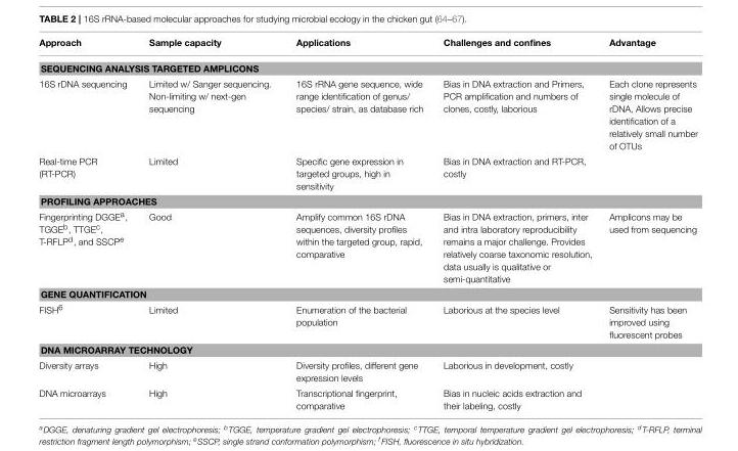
<table><thead><tr><td>Approach</td><td>Sample capacity</td><td>Applications</td><td>Challenges and confines</td><td>Advantage</td></tr></thead><tbody><tr><td colspan="5">SEQUENCING ANALYSIS TARGETED AMPLICONS</td></tr><tr><td>16S rDNA sequencing</td><td>Limited w/ Sanger sequencing. Non-limiting w/ next-gen sequencing</td><td>16S rRNA gene sequence, wide range identification of genus/ species/ strain, as database rich</td><td>Bias in DNA extraction and Primers, PCR amplification and numbers of clones, costly, laborious</td><td>Each clone represents single molecule of rDNA, Allows precise identification of a relatively small number of OTUs</td></tr><tr><td>Real-time PCR (RT-PCR)</td><td>Limited</td><td>Specific gene expression in targeted groups, high in sensitivity</td><td>Bias in DNA extraction and RT-PCR, costly</td><td></td></tr><tr><td colspan="5">PROFILING APPROACHES</td></tr><tr><td>Fingerprinting DGGE<sup>a</sup>, TGGE<sup>b</sup>, TTGE<sup>c</sup>, T-RFLP<sup>d</sup>, and SSCP<sup>e</sup></td><td>Good</td><td>Amplify common 16S rDNA sequences, diversity profiles within the targeted group, rapid, comparative</td><td>Bias in DNA extraction, primers, inter and intra laboratory reproducibility remains a major challenge. Provides relatively coarse taxonomic resolution, data usually is qualitative or semi-quantitative</td><td>Amplicons may be used from sequencing</td></tr><tr><td colspan="5">GENE QUANTIFICATION</td></tr><tr><td>FISH<sup>6</sup></td><td>Limited</td><td>Enumeration of the bacterial population</td><td>Laborious at the species level</td><td>Sensitivity has been improved using fluorescent probes</td></tr><tr><td colspan="5">DNA MICROARRAY TECHNOLOGY</td></tr><tr><td>Diversity arrays</td><td>High</td><td>Diversity profiles, different gene expression levels</td><td>Laborious in development, costly</td><td></td></tr><tr><td>DNA microarrays</td><td>High</td><td>Transcriptional fingerprint, comparative</td><td>Bias in nucleic acids extraction and their labeling, costly</td><td></td></tr></tbody></table>